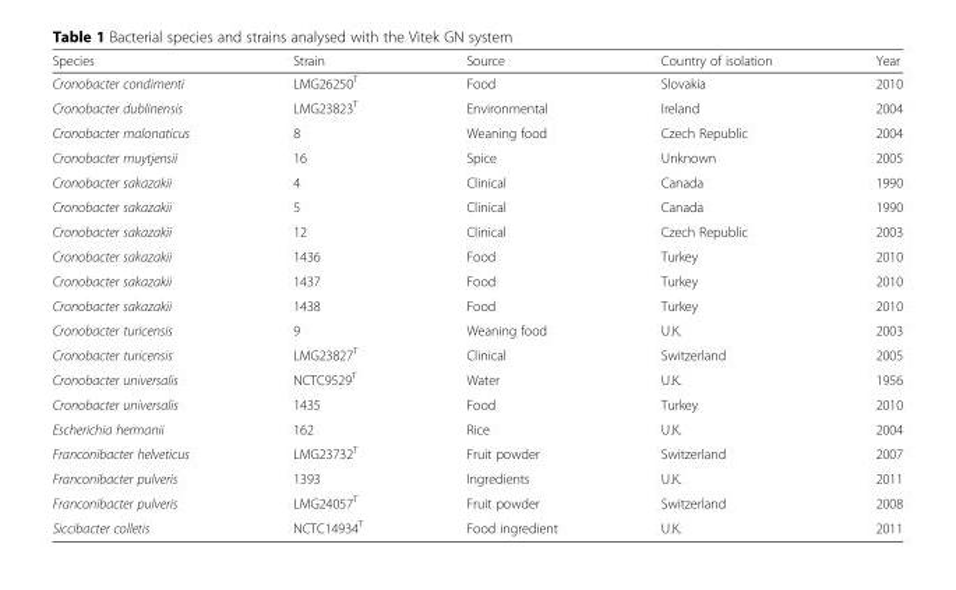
<table><thead><tr><td>Species</td><td>Strain</td><td>Source</td><td>Country of isolation</td><td>Year</td></tr></thead><tbody><tr><td>Cronobacter condimenti</td><td>LMG26250<sup>T</sup></td><td>Food</td><td>Slovakia</td><td>2010</td></tr><tr><td>Cronobacter dublinensis</td><td>LMG23823<sup>T</sup></td><td>Environmental</td><td>Ireland</td><td>2004</td></tr><tr><td>Cronobacter malonaticus</td><td>8</td><td>Weaning food</td><td>Czech Republic</td><td>2004</td></tr><tr><td>Cronobacter muytjensii</td><td>16</td><td>Spice</td><td>Unknown</td><td>2005</td></tr><tr><td>Cronobacter sakazakii</td><td>4</td><td>Clinical</td><td>Canada</td><td>1990</td></tr><tr><td>Cronobacter sakazakii</td><td>5</td><td>Clinical</td><td>Canada</td><td>1990</td></tr><tr><td>Cronobacter sakazakii</td><td>12</td><td>Clinical</td><td>Czech Republic</td><td>2003</td></tr><tr><td>Cronobacter sakazakii</td><td>1436</td><td>Food</td><td>Turkey</td><td>2010</td></tr><tr><td>Cronobacter sakazakii</td><td>1437</td><td>Food</td><td>Turkey</td><td>2010</td></tr><tr><td>Cronobacter sakazakii</td><td>1438</td><td>Food</td><td>Turkey</td><td>2010</td></tr><tr><td>Cronobacter turicensis</td><td>9</td><td>Weaning food</td><td>U.K.</td><td>2003</td></tr><tr><td>Cronobacter turicensis</td><td>LMG23827<sup>T</sup></td><td>Clinical</td><td>Switzerland</td><td>2005</td></tr><tr><td>Cronobacter universalis</td><td>NCTC9529<sup>T</sup></td><td>Water</td><td>U.K.</td><td>1956</td></tr><tr><td>Cronobacter universalis</td><td>1435</td><td>Food</td><td>Turkey</td><td>2010</td></tr><tr><td>Escherichia hermanii</td><td>162</td><td>Rice</td><td>U.K.</td><td>2004</td></tr><tr><td>Franconibacter helveticus</td><td>LMG23732<sup>T</sup></td><td>Fruit powder</td><td>Switzerland</td><td>2007</td></tr><tr><td>Franconibacter pulveris</td><td>1393</td><td>Ingredients</td><td>U.K.</td><td>2011</td></tr><tr><td>Franconibacter pulveris</td><td>LMG24057<sup>T</sup></td><td>Fruit powder</td><td>Switzerland</td><td>2008</td></tr><tr><td>Siccibacter colletis</td><td>NCTC14934<sup>T</sup></td><td>Food ingredient</td><td>U.K.</td><td>2011</td></tr></tbody></table>